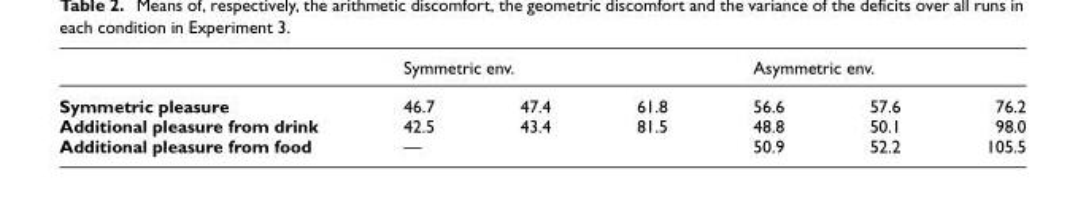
<table><thead><tr><td rowspan="2">Symmetric pleasure</td><td colspan="3">Symmetric env.</td><td colspan="3">Asymmetric env.</td></tr><tr><td>46.7</td><td>47.4</td><td>61.8</td><td>56.6</td><td>57.6</td><td>76.2</td></tr></thead><tbody><tr><td>Additional pleasure from drink</td><td>42.5</td><td>43.4</td><td>81.5</td><td>48.8</td><td>50.1</td><td>98.0</td></tr><tr><td>Additional pleasure from food</td><td colspan="3">—</td><td>50.9</td><td>52.2</td><td>105.5</td></tr></tbody></table>